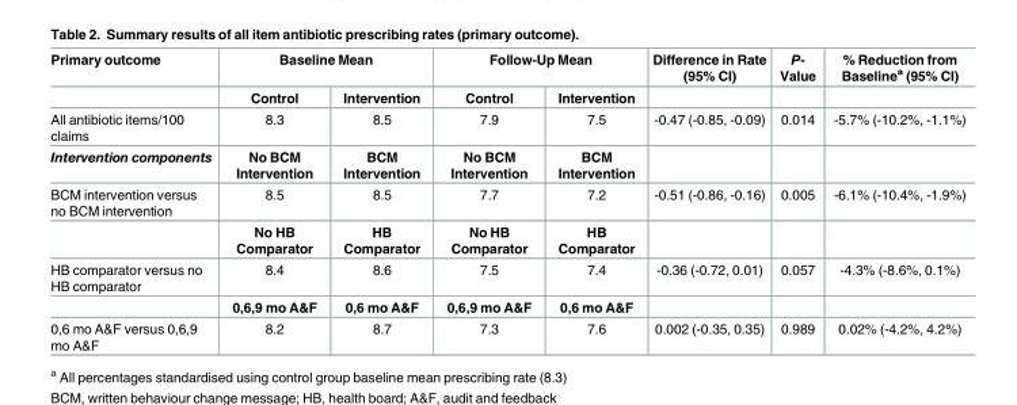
<table><thead><tr><td rowspan="2">Primary outcome</td><td colspan="2">Baseline Mean</td><td colspan="2">Follow-Up Mean</td><td rowspan="2">Difference in Rate (95% CI)</td><td rowspan="2">P- Value</td><td rowspan="2">% Reduction from Baseline<sup>a</sup> (95% CI)</td></tr><tr><td>Control</td><td>Intervention</td><td>Control</td><td>Intervention</td></tr></thead><tbody><tr><td>All antibiotic items/100 claims</td><td>8.3</td><td>8.5</td><td>7.9</td><td>7.5</td><td>-0.47 (-0.85, -0.09)</td><td>0.014</td><td>-5.7% (-10.2%, -1.1%)</td></tr><tr><td>Intervention components</td><td>No BCM Intervention</td><td>BCM Intervention</td><td>No BCM Intervention</td><td>BCM Intervention</td><td></td><td></td><td></td></tr><tr><td rowspan="2">BCM intervention versus no BCM intervention</td><td>8.5</td><td>8.5</td><td>7.7</td><td>7.2</td><td>-0.51 (-0.86, -0.16)</td><td>0.005</td><td>-6.1% (-10.4%, -1.9%)</td></tr><tr><td>No HB Comparator</td><td>HB Comparator</td><td>No HB Comparator</td><td>HB Comparator</td><td></td><td></td><td></td></tr><tr><td rowspan="2">HB comparator versus no HB comparator</td><td>8.4</td><td>8.6</td><td>7.5</td><td>7.4</td><td>-0.36 (-0.72, 0.01)</td><td>0.057</td><td>-4.3% (-8.6%, 0.1%)</td></tr><tr><td>0,6,9 mo A&amp;F</td><td>0,6 mo A&amp;F</td><td>0,6,9 mo A&amp;F</td><td>0,6 mo A&amp;F</td><td></td><td></td><td></td></tr><tr><td>0,6 mo A&amp;F versus 0,6,9 mo A&amp;F</td><td>8.2</td><td>8.7</td><td>7.3</td><td>7.6</td><td>0.002 (-0.35, 0.35)</td><td>0.989</td><td>0.02% (-4.2%, 4.2%)</td></tr></tbody></table>